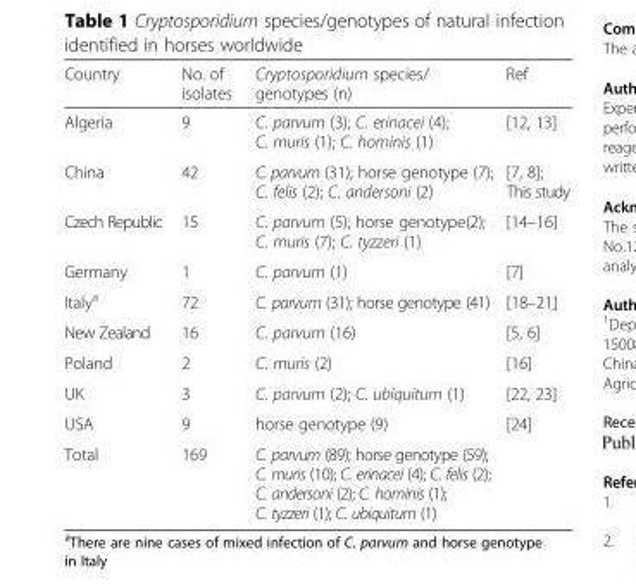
<table><thead><tr><td>Country</td><td>No. of isolates</td><td>Cryptosporidium species/ genotypes (n)</td><td>Ref</td></tr></thead><tbody><tr><td>Algeria</td><td>9</td><td>C. parvum (3); C. erinacei (4); C. muris (1); C. hominis (1)</td><td>[12, 13]</td></tr><tr><td>China</td><td>42</td><td>C. parvum (31); horse genotype (7); C. felis (2); C. andersoni (2)</td><td>[7, 8]; This study</td></tr><tr><td>Czech Republic</td><td>15</td><td>C. parvum (5); horse genotype(2); C. muris (7); C. tyzzeri (1)</td><td>[14–16]</td></tr><tr><td>Germany</td><td>1</td><td>C. parvum (1)</td><td>[7]</td></tr><tr><td>Italy<sup>a</sup></td><td>72</td><td>C. parvum (31); horse genotype (41)</td><td>[18–21]</td></tr><tr><td>New Zealand</td><td>16</td><td>C. parvum (16)</td><td>[5, 6]</td></tr><tr><td>Poland</td><td>2</td><td>C. muris (2)</td><td>[16]</td></tr><tr><td>UK</td><td>3</td><td>C. parvum (2); C. ubiquitum (1)</td><td>[22, 23]</td></tr><tr><td>USA</td><td>9</td><td>horse genotype (9)</td><td>[24]</td></tr><tr><td>Total</td><td>169</td><td>C. parvum (89); horse genotype (59); C. muris (10); C. erinacei (4); C. felis (2); C. andersoni (2); C. hominis (1); C. tyzzeri (1); C. ubiquitum (1)</td><td></td></tr></tbody></table>